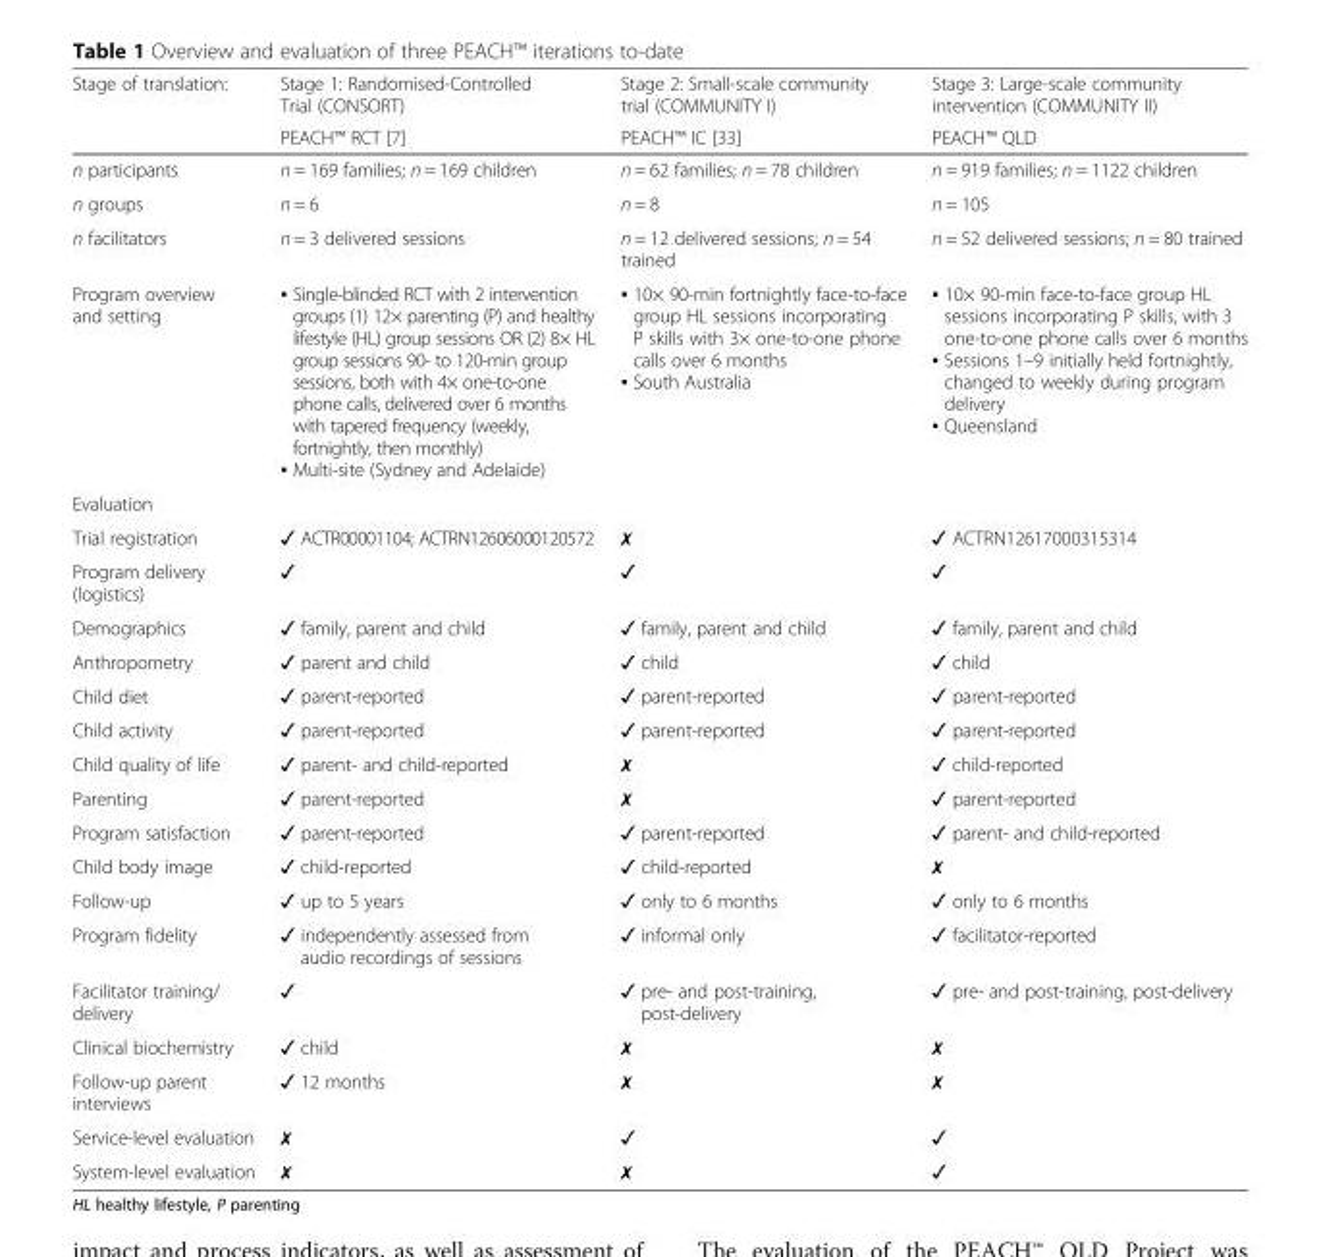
<table><thead><tr><td rowspan="2">Stage of translation:</td><td rowspan="2">Stage 1: Randomised-Controlled Trial (CONSORT) PEACH™ RCT [7]</td><td rowspan="2">Stage 2: Small-scale community trial (COMMUNITY I) PEACH™ IC [33]</td><td rowspan="2">Stage 3: Large-scale community intervention (COMMUNITY II) PEACH™ QLD</td></tr><tr></tr></thead><tbody><tr><td>n participants</td><td>n = 169 families; n = 169 children</td><td>n = 62 families; n = 78 children</td><td>n = 919 families; n = 1122 children</td></tr><tr><td>n groups</td><td>n = 6</td><td>n = 8</td><td>n = 105</td></tr><tr><td>n facilitators</td><td>n = 3 delivered sessions</td><td>n = 12 delivered sessions; n = 54 trained</td><td>n = 52 delivered sessions; n = 80 trained</td></tr><tr><td>Program overview and setting</td><td>▪ Single-blinded RCT with 2 intervention groups (1) 12× parenting (P) and healthy lifestyle (HL) group sessions OR (2) 8× HL group sessions 90- to 120-min group sessions, both with 4× one-to-one phone calls, delivered over 6 months with tapered frequency (weekly, fortnightly, then monthly) ▪ Multi-site (Sydney and Adelaide)</td><td>▪ 10× 90-min fortnightly face-to-face group HL sessions incorporating P skills with 3× one-to-one phone calls over 6 months ▪ South Australia</td><td>▪ 10× 90-min face-to-face group HL sessions incorporating P skills, with 3 one-to-one phone calls over 6 months ▪ Sessions 1–9 initially held fortnightly, changed to weekly during program delivery ▪ Queensland</td></tr><tr><td colspan="4">Evaluation</td></tr><tr><td>Trial registration</td><td>✓ ACTR00001104; ACTRN12606000120572</td><td>✗</td><td>✓ ACTRN12617000315314</td></tr><tr><td>Program delivery (logistics)</td><td>✓</td><td>✓</td><td>✓</td></tr><tr><td>Demographics</td><td>✓ family, parent and child</td><td>✓ family, parent and child</td><td>✓ family, parent and child</td></tr><tr><td>Anthropometry</td><td>✓ parent and child</td><td>✓ child</td><td>✓ child</td></tr><tr><td>Child diet</td><td>✓ parent-reported</td><td>✓ parent-reported</td><td>✓ parent-reported</td></tr><tr><td>Child activity</td><td>✓ parent-reported</td><td>✓ parent-reported</td><td>✓ parent-reported</td></tr><tr><td>Child quality of life</td><td>✓ parent- and child-reported</td><td>✗</td><td>✓ child-reported</td></tr><tr><td>Parenting</td><td>✓ parent-reported</td><td>✗</td><td>✓ parent-reported</td></tr><tr><td>Program satisfaction</td><td>✓ parent-reported</td><td>✓ parent-reported</td><td>✓ parent- and child-reported</td></tr><tr><td>Child body image</td><td>✓ child-reported</td><td>✓ child-reported</td><td>✗</td></tr><tr><td>Follow-up</td><td>✓ up to 5 years</td><td>✓ only to 6 months</td><td>✓ only to 6 months</td></tr><tr><td>Program fidelity</td><td>✓ independently assessed from audio recordings of sessions</td><td>✓ informal only</td><td>✓ facilitator-reported</td></tr><tr><td>Facilitator training/ delivery</td><td>✓</td><td>✓ pre- and post-training, post-delivery</td><td>✓ pre- and post-training, post-delivery</td></tr><tr><td>Clinical biochemistry</td><td>✓ child</td><td>✗</td><td>✗</td></tr><tr><td>Follow-up parent interviews</td><td>✓ 12 months</td><td>✗</td><td>✗</td></tr><tr><td>Service-level evaluation</td><td>✗</td><td>✓</td><td>✓</td></tr><tr><td>System-level evaluation</td><td>✗</td><td>✗</td><td>✓</td></tr></tbody></table>